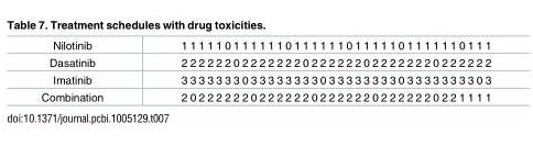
<table><tbody><tr><td>Nilotinib</td><td>1 1 1 1 1 0 1 1 1 1 1 1 0 1 1 1 1 1 1 0 1 1 1 1 1 0 1 1 1 1 1 1 0 1 1 1</td></tr><tr><td>Dasatinib</td><td>2 2 2 2 2 2 0 2 2 2 2 2 2 2 0 2 2 2 2 2 2 0 2 2 2 2 2 2 2 0 2 2 2 2 2 2</td></tr><tr><td>Imatinib</td><td>3 3 3 3 3 3 3 0 3 3 3 3 3 3 3 3 0 3 3 3 3 3 3 3 3 0 3 3 3 3 3 3 3 3 0 3</td></tr><tr><td>Combination</td><td>2 0 2 2 2 2 2 2 0 2 2 2 2 2 2 0 2 2 2 2 2 2 0 2 2 2 2 2 2 0 2 2 1 1 1 1</td></tr></tbody></table>